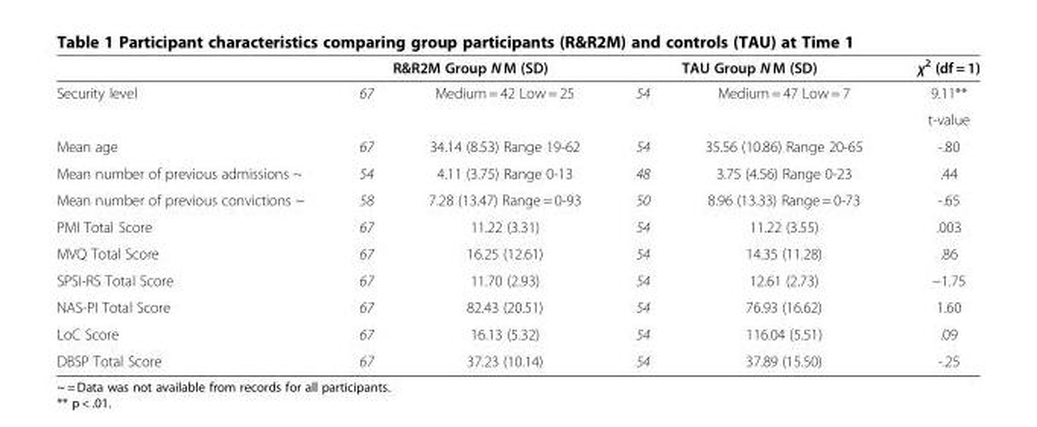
<table><thead><tr><td rowspan="2">Security level</td><td colspan="2">R&amp;R2M Group N M (SD)</td><td colspan="2">TAU Group N M (SD)</td><td rowspan="2">χ<sup>2</sup> (df = 1) 9.11**</td></tr><tr><td>67</td><td>Medium = 42 Low = 25</td><td>54</td><td>Medium = 47 Low = 7</td></tr></thead><tbody><tr><td></td><td></td><td></td><td></td><td></td><td>t-value</td></tr><tr><td>Mean age</td><td>67</td><td>34.14 (8.53) Range 19-62</td><td>54</td><td>35.56 (10.86) Range 20-65</td><td>-.80</td></tr><tr><td>Mean number of previous admissions ~</td><td>54</td><td>4.11 (3.75) Range 0-13</td><td>48</td><td>3.75 (4.56) Range 0-23</td><td>.44</td></tr><tr><td>Mean number of previous convictions ~</td><td>58</td><td>7.28 (13.47) Range = 0-93</td><td>50</td><td>8.96 (13.33) Range = 0-73</td><td>-.65</td></tr><tr><td>PMI Total Score</td><td>67</td><td>11.22 (3.31)</td><td>54</td><td>11.22 (3.55)</td><td>.003</td></tr><tr><td>MVQ Total Score</td><td>67</td><td>16.25 (12.61)</td><td>54</td><td>14.35 (11.28)</td><td>.86</td></tr><tr><td>SPSI-RS Total Score</td><td>67</td><td>11.70 (2.93)</td><td>54</td><td>12.61 (2.73)</td><td>−1.75</td></tr><tr><td>NAS-PI Total Score</td><td>67</td><td>82.43 (20.51)</td><td>54</td><td>76.93 (16.62)</td><td>1.60</td></tr><tr><td>LoC Score</td><td>67</td><td>16.13 (5.32)</td><td>54</td><td>116.04 (5.51)</td><td>.09</td></tr><tr><td>DBSP Total Score</td><td>67</td><td>37.23 (10.14)</td><td>54</td><td>37.89 (15.50)</td><td>-.25</td></tr></tbody></table>